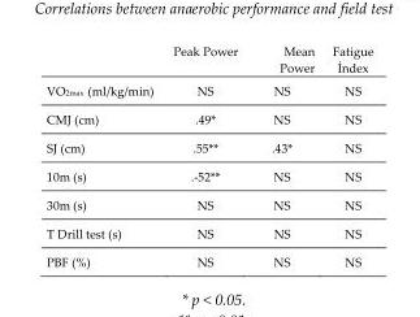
<table><thead><tr><td></td><td>Peak Power</td><td>Mean Power</td><td>Fatigue İndex</td></tr></thead><tbody><tr><td>VO<sub>2</sub>max (ml/kg/min)</td><td>NS</td><td>NS</td><td>NS</td></tr><tr><td>CMJ (cm)</td><td>.49*</td><td>NS</td><td>NS</td></tr><tr><td>SJ (cm)</td><td>.55**</td><td>.43*</td><td>NS</td></tr><tr><td>10m (s)</td><td>.-52**</td><td>NS</td><td>NS</td></tr><tr><td>30m (s)</td><td>NS</td><td>NS</td><td>NS</td></tr><tr><td>T Drill test (s)</td><td>NS</td><td>NS</td><td>NS</td></tr><tr><td>PBF (%)</td><td>NS</td><td>NS</td><td>NS</td></tr></tbody></table>